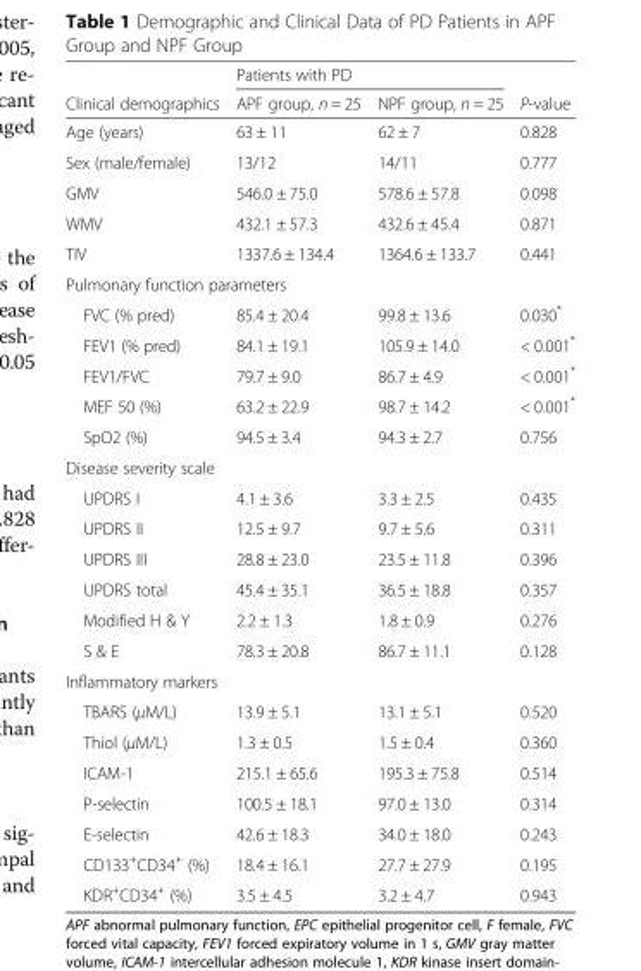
<table><thead><tr><td rowspan="2">Clinical demographics</td><td colspan="2">Patients with PD</td><td rowspan="2">P-value</td></tr><tr><td>APF group, n = 25</td><td>NPF group, n = 25</td></tr></thead><tbody><tr><td>Age (years)</td><td>63 ± 11</td><td>62 ± 7</td><td>0.828</td></tr><tr><td>Sex (male/female)</td><td>13/12</td><td>14/11</td><td>0.777</td></tr><tr><td>GMV</td><td>546.0 ± 75.0</td><td>578.6 ± 57.8</td><td>0.098</td></tr><tr><td>WMV</td><td>432.1 ± 57.3</td><td>432.6 ± 45.4</td><td>0.871</td></tr><tr><td>TIV</td><td>1337.6 ± 134.4</td><td>1364.6 ± 133.7</td><td>0.441</td></tr><tr><td colspan="4">Pulmonary function parameters</td></tr><tr><td>FVC (% pred)</td><td>85.4 ± 20.4</td><td>99.8 ± 13.6</td><td>0.030*</td></tr><tr><td>FEV1 (% pred)</td><td>84.1 ± 19.1</td><td>105.9 ± 14.0</td><td>&lt; 0.001*</td></tr><tr><td>FEV1/FVC</td><td>79.7 ± 9.0</td><td>86.7 ± 4.9</td><td>&lt; 0.001*</td></tr><tr><td>MEF 50 (%)</td><td>63.2 ± 22.9</td><td>98.7 ± 14.2</td><td>&lt; 0.001*</td></tr><tr><td>SpO2 (%)</td><td>94.5 ± 3.4</td><td>94.3 ± 2.7</td><td>0.756</td></tr><tr><td colspan="4">Disease severity scale</td></tr><tr><td>UPDRS I</td><td>4.1 ± 3.6</td><td>3.3 ± 2.5</td><td>0.435</td></tr><tr><td>UPDRS II</td><td>12.5 ± 9.7</td><td>9.7 ± 5.6</td><td>0.311</td></tr><tr><td>UPDRS III</td><td>28.8 ± 23.0</td><td>23.5 ± 11.8</td><td>0.396</td></tr><tr><td>UPDRS total</td><td>45.4 ± 35.1</td><td>36.5 ± 18.8</td><td>0.357</td></tr><tr><td>Modified H &amp; Y</td><td>2.2 ± 1.3</td><td>1.8 ± 0.9</td><td>0.276</td></tr><tr><td>S &amp; E</td><td>78.3 ± 20.8</td><td>86.7 ± 11.1</td><td>0.128</td></tr><tr><td colspan="4">Inflammatory markers</td></tr><tr><td>TBARS (µM/L)</td><td>13.9 ± 5.1</td><td>13.1 ± 5.1</td><td>0.520</td></tr><tr><td>Thiol (µM/L)</td><td>1.3 ± 0.5</td><td>1.5 ± 0.4</td><td>0.360</td></tr><tr><td>ICAM-1</td><td>215.1 ± 65.6</td><td>195.3 ± 75.8</td><td>0.514</td></tr><tr><td>P-selectin</td><td>100.5 ± 18.1</td><td>97.0 ± 13.0</td><td>0.314</td></tr><tr><td>E-selectin</td><td>42.6 ± 18.3</td><td>34.0 ± 18.0</td><td>0.243</td></tr><tr><td>CD133<sup>+</sup>CD34<sup>+</sup> (%)</td><td>18.4 ± 16.1</td><td>27.7 ± 27.9</td><td>0.195</td></tr><tr><td>KDR<sup>+</sup>CD34<sup>+</sup> (%)</td><td>3.5 ± 4.5</td><td>3.2 ± 4.7</td><td>0.943</td></tr></tbody></table>